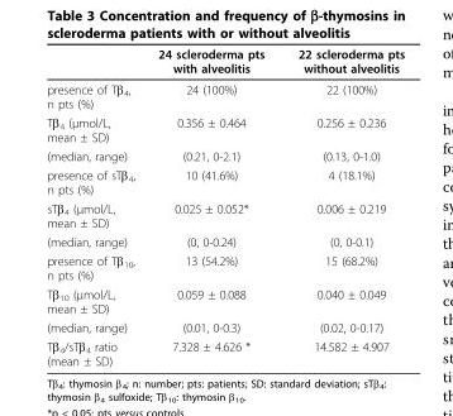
<table><thead><tr><td></td><td>24 scleroderma pts with alveolitis</td><td>22 scleroderma pts without alveolitis</td></tr></thead><tbody><tr><td>presence of Tβ<sub>4</sub>, n pts (%)</td><td>24 (100%)</td><td>22 (100%)</td></tr><tr><td>Tβ<sub>4</sub> (μmol/L, mean ± SD)</td><td>0.356 ± 0.464</td><td>0.256 ± 0.236</td></tr><tr><td>(median, range)</td><td>(0.21, 0-2.1)</td><td>(0.13, 0-1.0)</td></tr><tr><td>presence of sTβ<sub>4</sub>, n pts (%)</td><td>10 (41.6%)</td><td>4 (18.1%)</td></tr><tr><td>sTβ<sub>4</sub> (μmol/L, mean ± SD)</td><td>0.025 ± 0.052*</td><td>0.006 ± 0.219</td></tr><tr><td>(median, range)</td><td>(0, 0-0.24)</td><td>(0, 0-0.1)</td></tr><tr><td>presence of Tβ<sub>10</sub>, n pts (%)</td><td>13 (54.2%)</td><td>15 (68.2%)</td></tr><tr><td>Tβ<sub>10</sub> (μmol/L, mean ± SD)</td><td>0.059 ± 0.088</td><td>0.040 ± 0.049</td></tr><tr><td>(median, range)</td><td>(0.01, 0-0.3)</td><td>(0.02, 0-0.17)</td></tr><tr><td>Tβ<sub>4</sub>/sTβ<sub>4</sub> ratio (mean ± SD)</td><td>7.328 ± 4.626 *</td><td>14.582 ± 4.907</td></tr></tbody></table>